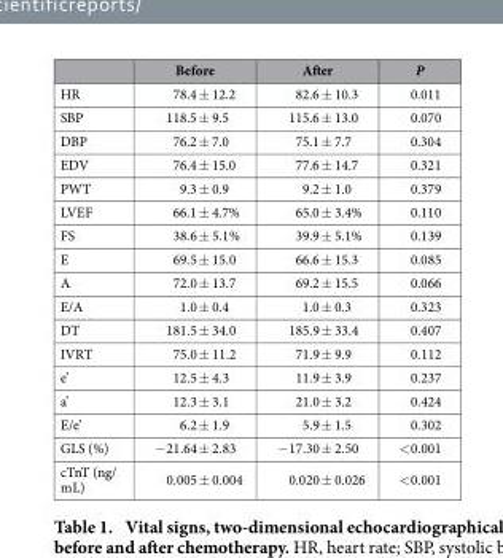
<table><thead><tr><td></td><td>Before</td><td>After</td><td>P</td></tr></thead><tbody><tr><td>HR</td><td>78.4 ± 12.2</td><td>82.6 ± 10.3</td><td>0.011</td></tr><tr><td>SBP</td><td>118.5 ± 9.5</td><td>115.6 ± 13.0</td><td>0.070</td></tr><tr><td>DBP</td><td>76.2 ± 7.0</td><td>75.1 ± 7.7</td><td>0.304</td></tr><tr><td>EDV</td><td>76.4 ± 15.0</td><td>77.6 ± 14.7</td><td>0.321</td></tr><tr><td>PWT</td><td>9.3 ± 0.9</td><td>9.2 ± 1.0</td><td>0.379</td></tr><tr><td>LVEF</td><td>66.1 ± 4.7%</td><td>65.0 ± 3.4%</td><td>0.110</td></tr><tr><td>FS</td><td>38.6 ± 5.1%</td><td>39.9 ± 5.1%</td><td>0.139</td></tr><tr><td>E</td><td>69.5 ± 15.0</td><td>66.6 ± 15.3</td><td>0.085</td></tr><tr><td>A</td><td>72.0 ± 13.7</td><td>69.2 ± 15.5</td><td>0.066</td></tr><tr><td>E/A</td><td>1.0 ± 0.4</td><td>1.0 ± 0.3</td><td>0.323</td></tr><tr><td>DT</td><td>181.5 ± 34.0</td><td>185.9 ± 33.4</td><td>0.407</td></tr><tr><td>IVRT</td><td>75.0 ± 11.2</td><td>71.9 ± 9.9</td><td>0.112</td></tr><tr><td>e’</td><td>12.5 ± 4.3</td><td>11.9 ± 3.9</td><td>0.237</td></tr><tr><td>a’</td><td>12.3 ± 3.1</td><td>21.0 ± 3.2</td><td>0.424</td></tr><tr><td>E/e’</td><td>6.2 ± 1.9</td><td>5.9 ± 1.5</td><td>0.302</td></tr><tr><td>GLS (%)</td><td>− 21.64 ± 2.83</td><td>− 17.30 ± 2.50</td><td>&lt; 0.001</td></tr><tr><td>cTnT (ng/ mL)</td><td>0.005 ± 0.004</td><td>0.020 ± 0.026</td><td>&lt; 0.001</td></tr></tbody></table>